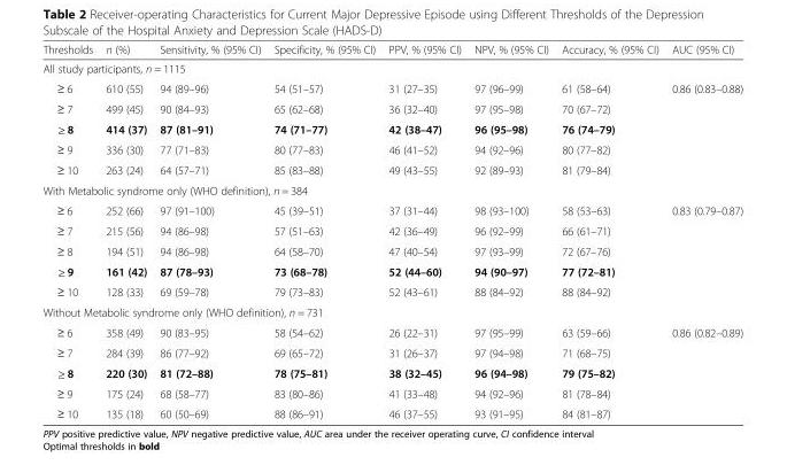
<table><thead><tr><td>Thresholds</td><td>n (%)</td><td>Sensitivity, % (95% CI)</td><td>Specificity, % (95% CI)</td><td>PPV, % (95% CI)</td><td>NPV, % (95% CI)</td><td>Accuracy, % (95% CI)</td><td>AUC (95% CI)</td></tr></thead><tbody><tr><td colspan="8">All study participants, n = 1115</td></tr><tr><td>≥ 6</td><td>610 (55)</td><td>94 (89–96)</td><td>54 (51–57)</td><td>31 (27–35)</td><td>97 (96–99)</td><td>61 (58–64)</td><td>0.86 (0.83–0.88)</td></tr><tr><td>≥ 7</td><td>499 (45)</td><td>90 (84–93)</td><td>65 (62–68)</td><td>36 (32–40)</td><td>97 (95–98)</td><td>70 (67–72)</td><td></td></tr><tr><td>≥ 8</td><td>414 (37)</td><td>87 (81–91)</td><td>74 (71–77)</td><td>42 (38–47)</td><td>96 (95–98)</td><td>76 (74–79)</td><td></td></tr><tr><td>≥ 9</td><td>336 (30)</td><td>77 (71–83)</td><td>80 (77–83)</td><td>46 (41–52)</td><td>94 (92–96)</td><td>80 (77–82)</td><td></td></tr><tr><td>≥ 10</td><td>263 (24)</td><td>64 (57–71)</td><td>85 (83–88)</td><td>49 (43–55)</td><td>92 (89–93)</td><td>81 (79–84)</td><td></td></tr><tr><td colspan="8">With Metabolic syndrome only (WHO definition), n = 384</td></tr><tr><td>≥ 6</td><td>252 (66)</td><td>97 (91–100)</td><td>45 (39–51)</td><td>37 (31–44)</td><td>98 (93–100)</td><td>58 (53–63)</td><td>0.83 (0.79–0.87)</td></tr><tr><td>≥ 7</td><td>215 (56)</td><td>94 (86–98)</td><td>57 (51–63)</td><td>42 (36–49)</td><td>96 (92–99)</td><td>66 (61–71)</td><td></td></tr><tr><td>≥ 8</td><td>194 (51)</td><td>94 (86–98)</td><td>64 (58–70)</td><td>47 (40–54)</td><td>97 (93–99)</td><td>72 (67–76)</td><td></td></tr><tr><td>≥ 9</td><td>161 (42)</td><td>87 (78–93)</td><td>73 (68–78)</td><td>52 (44–60)</td><td>94 (90–97)</td><td>77 (72–81)</td><td></td></tr><tr><td>≥ 10</td><td>128 (33)</td><td>69 (59–78)</td><td>79 (73–83)</td><td>52 (43–61)</td><td>88 (84–92)</td><td>88 (84–92)</td><td></td></tr><tr><td colspan="8">Without Metabolic syndrome only (WHO definition), n = 731</td></tr><tr><td>≥ 6</td><td>358 (49)</td><td>90 (83–95)</td><td>58 (54–62)</td><td>26 (22–31)</td><td>97 (95–99)</td><td>63 (59–66)</td><td>0.86 (0.82–0.89)</td></tr><tr><td>≥ 7</td><td>284 (39)</td><td>86 (77–92)</td><td>69 (65–72)</td><td>31 (26–37)</td><td>97 (94–98)</td><td>71 (68–75)</td><td></td></tr><tr><td>≥ 8</td><td>220 (30)</td><td>81 (72–88)</td><td>78 (75–81)</td><td>38 (32–45)</td><td>96 (94–98)</td><td>79 (75–82)</td><td></td></tr><tr><td>≥ 9</td><td>175 (24)</td><td>68 (58–77)</td><td>83 (80–86)</td><td>41 (33–48)</td><td>94 (92–96)</td><td>81 (78–84)</td><td></td></tr><tr><td>≥ 10</td><td>135 (18)</td><td>60 (50–69)</td><td>88 (86–91)</td><td>46 (37–55)</td><td>93 (91–95)</td><td>84 (81–87)</td><td></td></tr></tbody></table>